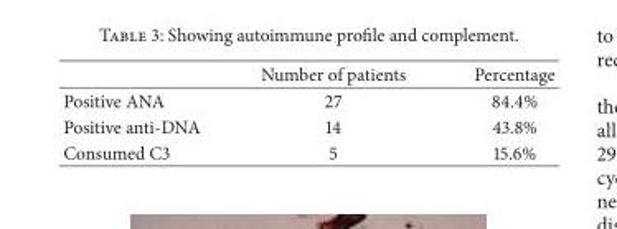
<table><thead><tr><td></td><td>Number of patients</td><td>Percentage</td></tr></thead><tbody><tr><td>Positive ANA</td><td>27</td><td>84.4%</td></tr><tr><td>Positive anti-DNA</td><td>14</td><td>43.8%</td></tr><tr><td>Consumed C3</td><td>5</td><td>15.6%</td></tr></tbody></table>